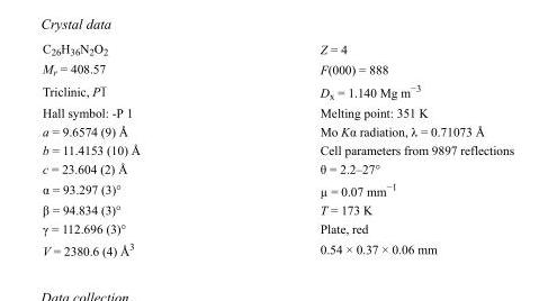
<table><tbody><tr><td>C<sub>26</sub>H<sub>36</sub>N<sub>2</sub>O<sub>2</sub></td><td>Z = 4</td></tr><tr><td>M<sub>r</sub> = 408.57</td><td>F(000) = 888</td></tr><tr><td>Triclinic, P1</td><td>D<sub>x</sub> = 1.140 Mg m<sup>−3</sup></td></tr><tr><td>Hall symbol: -P 1</td><td>Melting point: 351 K</td></tr><tr><td>a = 9.6574 (9) Å</td><td>Mo Kα radiation, λ = 0.71073 Å</td></tr><tr><td>b = 11.4153 (10) Å</td><td>Cell parameters from 9897 reflections</td></tr><tr><td>c = 23.604 (2) Å</td><td>θ = 2.2–27°</td></tr><tr><td>α = 93.297 (3)°</td><td>µ = 0.07 mm<sup>−1</sup></td></tr><tr><td>β = 94.834 (3)°</td><td>T = 173 K</td></tr><tr><td>γ = 112.696 (3)°</td><td>Plate, red</td></tr><tr><td>V = 2380.6 (4) Å<sup>3</sup></td><td>0.54 × 0.37 × 0.06 mm</td></tr></tbody></table>